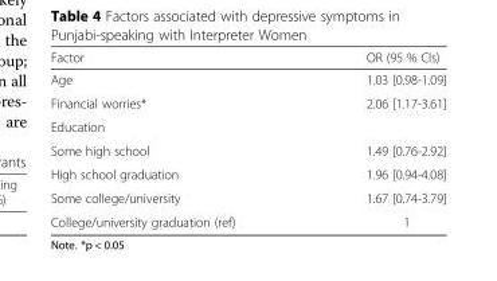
<table><thead><tr><td>Factor</td><td>OR (95 % CIs)</td></tr></thead><tbody><tr><td>Age</td><td>1.03 [0.98-1.09]</td></tr><tr><td>Financial worries*</td><td>2.06 [1.17-3.61]</td></tr><tr><td colspan="2">Education</td></tr><tr><td>Some high school</td><td>1.49 [0.76-2.92]</td></tr><tr><td>High school graduation</td><td>1.96 [0.94-4.08]</td></tr><tr><td>Some college/university</td><td>1.67 [0.74-3.79]</td></tr><tr><td>College/university graduation (ref)</td><td>1</td></tr></tbody></table>